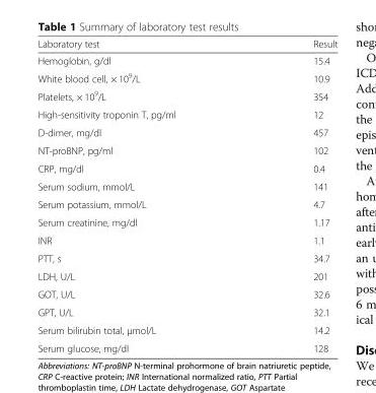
<table><thead><tr><td>Laboratory test</td><td>Result</td></tr></thead><tbody><tr><td>Hemoglobin, g/dl</td><td>15.4</td></tr><tr><td>White blood cell, × 10<sup>9</sup>/L</td><td>10.9</td></tr><tr><td>Platelets, × 10<sup>9</sup>/L</td><td>354</td></tr><tr><td>High-sensitivity troponin T, pg/ml</td><td>12</td></tr><tr><td>D-dimer, mg/dl</td><td>457</td></tr><tr><td>NT-proBNP, pg/ml</td><td>102</td></tr><tr><td>CRP, mg/dl</td><td>0.4</td></tr><tr><td>Serum sodium, mmol/L</td><td>141</td></tr><tr><td>Serum potassium, mmol/L</td><td>4.7</td></tr><tr><td>Serum creatinine, mg/dl</td><td>1.17</td></tr><tr><td>INR</td><td>1.1</td></tr><tr><td>PTT, s</td><td>34.7</td></tr><tr><td>LDH, U/L</td><td>201</td></tr><tr><td>GOT, U/L</td><td>32.6</td></tr><tr><td>GPT, U/L</td><td>32.1</td></tr><tr><td>Serum bilirubin total, μmol/L</td><td>14.2</td></tr><tr><td>Serum glucose, mg/dl</td><td>128</td></tr></tbody></table>